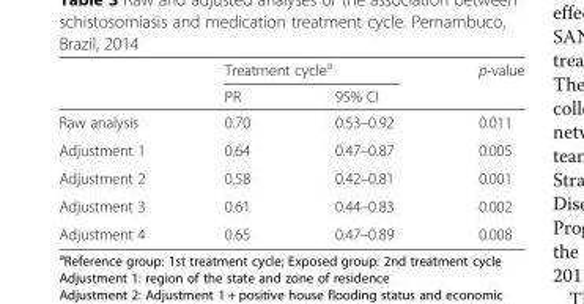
<table><thead><tr><td rowspan="2"></td><td colspan="2">Treatment cycle<sup>a</sup></td><td rowspan="2">p-value</td></tr><tr><td>PR</td><td>95% CI</td></tr></thead><tbody><tr><td>Raw analysis</td><td>0.70</td><td>0.53–0.92</td><td>0.011</td></tr><tr><td>Adjustment 1</td><td>0.64</td><td>0.47–0.87</td><td>0.005</td></tr><tr><td>Adjustment 2</td><td>0.58</td><td>0.42–0.81</td><td>0.001</td></tr><tr><td>Adjustment 3</td><td>0.61</td><td>0.44–0.83</td><td>0.002</td></tr><tr><td>Adjustment 4</td><td>0.65</td><td>0.47–0.89</td><td>0.008</td></tr></tbody></table>